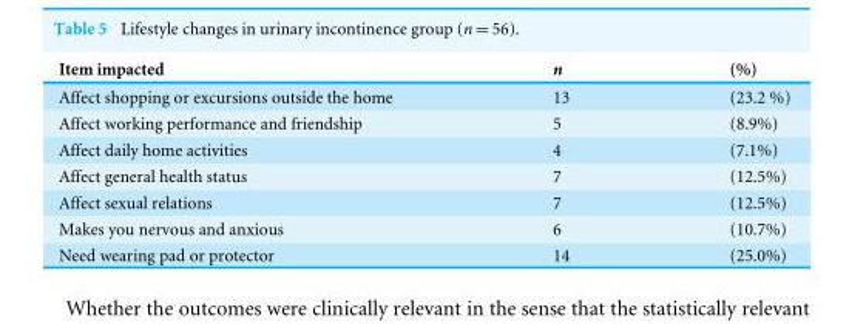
<table><thead><tr><td>Item impacted</td><td>n</td><td>(%)</td></tr></thead><tbody><tr><td>Affect shopping or excursions outside the home</td><td>13</td><td>(23.2 %)</td></tr><tr><td>Affect working performance and friendship</td><td>5</td><td>(8.9%)</td></tr><tr><td>Affect daily home activities</td><td>4</td><td>(7.1%)</td></tr><tr><td>Affect general health status</td><td>7</td><td>(12.5%)</td></tr><tr><td>Affect sexual relations</td><td>7</td><td>(12.5%)</td></tr><tr><td>Makes you nervous and anxious</td><td>6</td><td>(10.7%)</td></tr><tr><td>Need wearing pad or protector</td><td>14</td><td>(25.0%)</td></tr></tbody></table>